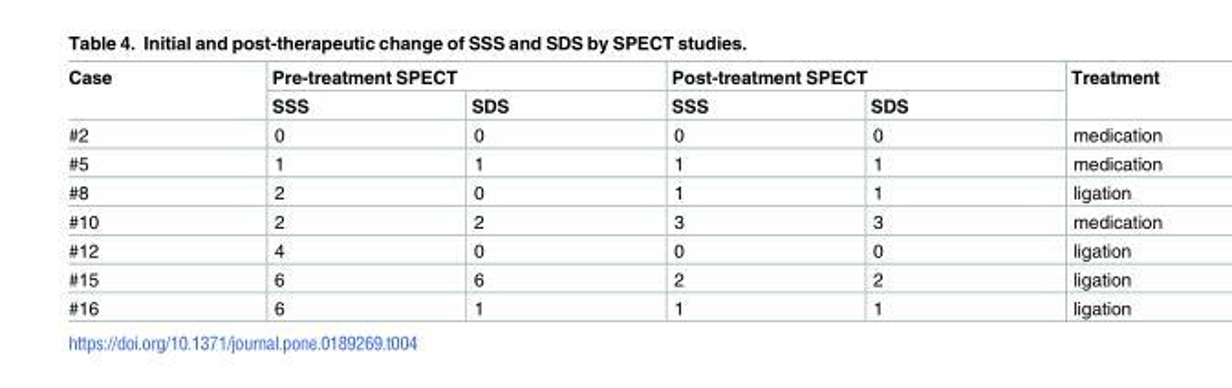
<table><thead><tr><td rowspan="2">Case</td><td colspan="2">Pre-treatment SPECT</td><td colspan="2">Post-treatment SPECT</td><td rowspan="2">Treatment</td></tr><tr><td>SSS</td><td>SDS</td><td>SSS</td><td>SDS</td></tr></thead><tbody><tr><td>#2</td><td>0</td><td>0</td><td>0</td><td>0</td><td>medication</td></tr><tr><td>#5</td><td>1</td><td>1</td><td>1</td><td>1</td><td>medication</td></tr><tr><td>#8</td><td>2</td><td>0</td><td>1</td><td>1</td><td>ligation</td></tr><tr><td>#10</td><td>2</td><td>2</td><td>3</td><td>3</td><td>medication</td></tr><tr><td>#12</td><td>4</td><td>0</td><td>0</td><td>0</td><td>ligation</td></tr><tr><td>#15</td><td>6</td><td>6</td><td>2</td><td>2</td><td>ligation</td></tr><tr><td>#16</td><td>6</td><td>1</td><td>1</td><td>1</td><td>ligation</td></tr></tbody></table>